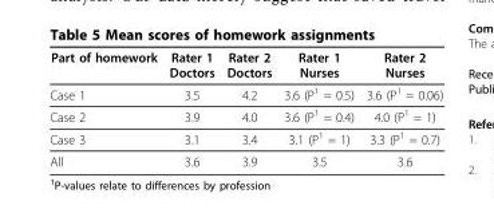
<table><thead><tr><td>Part of homework</td><td>Rater 1 Doctors</td><td>Rater 2 Doctors</td><td>Rater 1 Nurses</td><td>Rater 2 Nurses</td></tr></thead><tbody><tr><td>Case 1</td><td>3.5</td><td>4.2</td><td>3.6 (P<sup>1</sup> = 0.5)</td><td>3.6 (P<sup>1</sup> = 0.06)</td></tr><tr><td>Case 2</td><td>3.9</td><td>4.0</td><td>3.6 (P<sup>1</sup> = 0.4)</td><td>4.0 (P<sup>1</sup> = 1)</td></tr><tr><td>Case 3</td><td>3.1</td><td>3.4</td><td>3.1 (P<sup>1</sup> = 1)</td><td>3.3 (P<sup>1</sup> = 0.7)</td></tr><tr><td>All</td><td>3.6</td><td>3.9</td><td>3.5</td><td>3.6</td></tr></tbody></table>